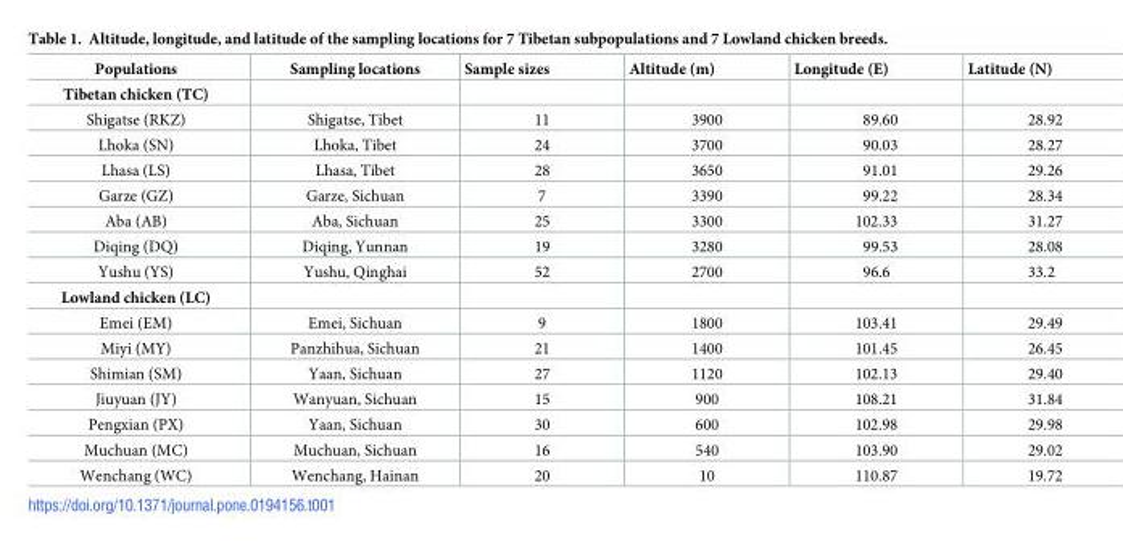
<table><thead><tr><td>Populations</td><td>Sampling locations</td><td>Sample sizes</td><td>Altitude (m)</td><td>Longitude (E)</td><td>Latitude (N)</td></tr></thead><tbody><tr><td colspan="6">Tibetan chicken (TC)</td></tr><tr><td>Shigatse (RKZ)</td><td>Shigatse, Tibet</td><td>11</td><td>3900</td><td>89.60</td><td>28.92</td></tr><tr><td>Lhoka (SN)</td><td>Lhoka, Tibet</td><td>24</td><td>3700</td><td>90.03</td><td>28.27</td></tr><tr><td>Lhasa (LS)</td><td>Lhasa, Tibet</td><td>28</td><td>3650</td><td>91.01</td><td>29.26</td></tr><tr><td>Garze (GZ)</td><td>Garze, Sichuan</td><td>7</td><td>3390</td><td>99.22</td><td>28.34</td></tr><tr><td>Aba (AB)</td><td>Aba, Sichuan</td><td>25</td><td>3300</td><td>102.33</td><td>31.27</td></tr><tr><td>Diqing (DQ)</td><td>Diqing, Yunnan</td><td>19</td><td>3280</td><td>99.53</td><td>28.08</td></tr><tr><td>Yushu (YS)</td><td>Yushu, Qinghai</td><td>52</td><td>2700</td><td>96.6</td><td>33.2</td></tr><tr><td colspan="6">Lowland chicken (LC)</td></tr><tr><td>Emei (EM)</td><td>Emei, Sichuan</td><td>9</td><td>1800</td><td>103.41</td><td>29.49</td></tr><tr><td>Miyi (MY)</td><td>Panzhihua, Sichuan</td><td>21</td><td>1400</td><td>101.45</td><td>26.45</td></tr><tr><td>Shimian (SM)</td><td>Yaan, Sichuan</td><td>27</td><td>1120</td><td>102.13</td><td>29.40</td></tr><tr><td>Jiuyuan (JY)</td><td>Wanyuan, Sichuan</td><td>15</td><td>900</td><td>108.21</td><td>31.84</td></tr><tr><td>Pengxian (PX)</td><td>Yaan, Sichuan</td><td>30</td><td>600</td><td>102.98</td><td>29.98</td></tr><tr><td>Muchuan (MC)</td><td>Muchuan, Sichuan</td><td>16</td><td>540</td><td>103.90</td><td>29.02</td></tr><tr><td>Wenchang (WC)</td><td>Wenchang, Hainan</td><td>20</td><td>10</td><td>110.87</td><td>19.72</td></tr></tbody></table>